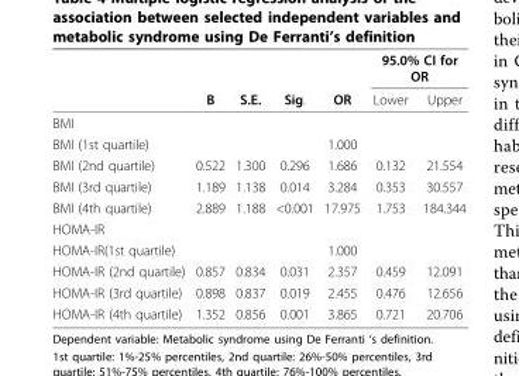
<table><thead><tr><td rowspan="2"></td><td rowspan="2">B</td><td rowspan="2">S.E.</td><td rowspan="2">Sig.</td><td rowspan="2">OR</td><td colspan="2">95.0% CI for OR</td></tr><tr><td>Lower</td><td>Upper</td></tr></thead><tbody><tr><td colspan="7">BMI</td></tr><tr><td>BMI (1st quartile)</td><td></td><td></td><td></td><td>1.000</td><td></td><td></td></tr><tr><td>BMI (2nd quartile)</td><td>0.522</td><td>1.300</td><td>0.296</td><td>1.686</td><td>0.132</td><td>21.554</td></tr><tr><td>BMI (3rd quartile)</td><td>1.189</td><td>1.138</td><td>0.014</td><td>3.284</td><td>0.353</td><td>30.557</td></tr><tr><td>BMI (4th quartile)</td><td>2.889</td><td>1.188</td><td>&lt;0.001</td><td>17.975</td><td>1.753</td><td>184.344</td></tr><tr><td colspan="7">HOMA-IR</td></tr><tr><td>HOMA-IR(1st quartile)</td><td></td><td></td><td></td><td>1.000</td><td></td><td></td></tr><tr><td>HOMA-IR (2nd quartile)</td><td>0.857</td><td>0.834</td><td>0.031</td><td>2.357</td><td>0.459</td><td>12.091</td></tr><tr><td>HOMA-IR (3rd quartile)</td><td>0.898</td><td>0.837</td><td>0.019</td><td>2.455</td><td>0.476</td><td>12.656</td></tr><tr><td>HOMA-IR (4th quartile)</td><td>1.352</td><td>0.856</td><td>0.001</td><td>3.865</td><td>0.721</td><td>20.706</td></tr></tbody></table>